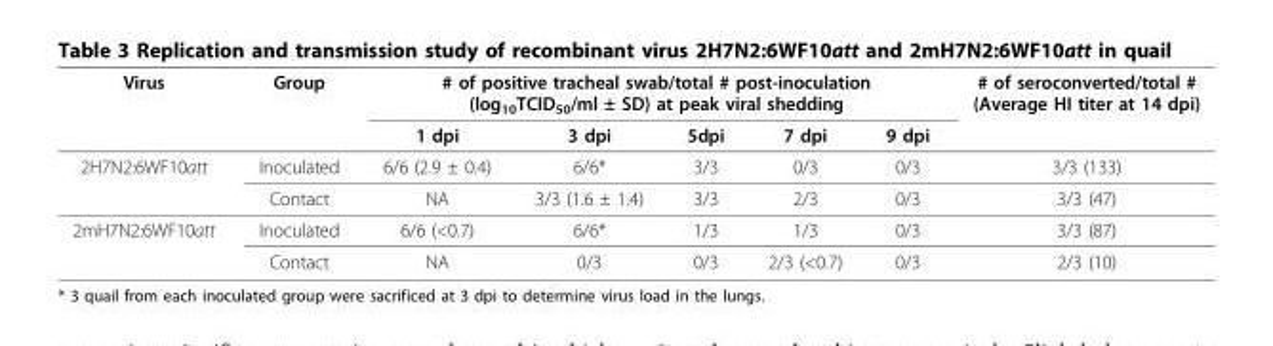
<table><thead><tr><td rowspan="2">Virus</td><td rowspan="2">Group</td><td colspan="5"># of positive tracheal swab/total # post-inoculation (log<sub>10</sub>TCID<sub>50</sub>/ml ± SD) at peak viral shedding</td><td rowspan="2"># of seroconverted/total # (Average HI titer at 14 dpi)</td></tr><tr><td>1 dpi</td><td>3 dpi</td><td>5dpi</td><td>7 dpi</td><td>9 dpi</td></tr></thead><tbody><tr><td rowspan="2">2H7N2:6WF10att</td><td>Inoculated</td><td>6/6 (2.9 ± 0.4)</td><td>6/6*</td><td>3/3</td><td>0/3</td><td>0/3</td><td>3/3 (133)</td></tr><tr><td>Contact</td><td>NA</td><td>3/3 (1.6 ± 1.4)</td><td>3/3</td><td>2/3</td><td>0/3</td><td>3/3 (47)</td></tr><tr><td rowspan="2">2mH7N2:6WF10att</td><td>Inoculated</td><td>6/6 (&lt;0.7)</td><td>6/6*</td><td>1/3</td><td>1/3</td><td>0/3</td><td>3/3 (87)</td></tr><tr><td>Contact</td><td>NA</td><td>0/3</td><td>0/3</td><td>2/3 (&lt;0.7)</td><td>0/3</td><td>2/3 (10)</td></tr></tbody></table>